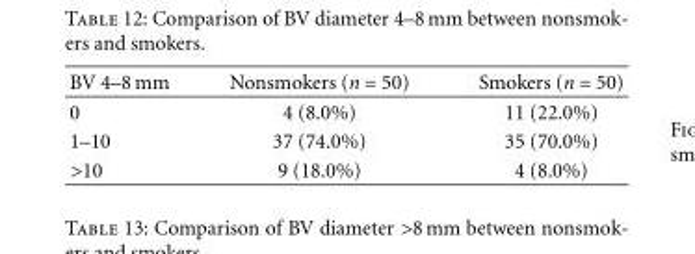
<table><thead><tr><td>BV 4–8 mm</td><td>Nonsmokers (n = 50)</td><td>Smokers (n = 50)</td></tr></thead><tbody><tr><td>0</td><td>4 (8.0%)</td><td>11 (22.0%)</td></tr><tr><td>1–10</td><td>37 (74.0%)</td><td>35 (70.0%)</td></tr><tr><td>&gt;10</td><td>9 (18.0%)</td><td>4 (8.0%)</td></tr></tbody></table>